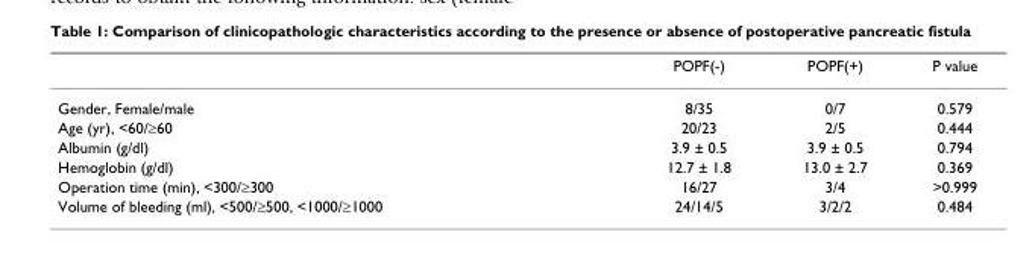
<table><thead><tr><td></td><td>POPF(-)</td><td>POPF(+)</td><td>P value</td></tr></thead><tbody><tr><td>Gender, Female/male</td><td>8/35</td><td>0/7</td><td>0.579</td></tr><tr><td>Age (yr), &lt;60/≥60</td><td>20/23</td><td>2/5</td><td>0.444</td></tr><tr><td>Albumin (g/dl)</td><td>3.9 ± 0.5</td><td>3.9 ± 0.5</td><td>0.794</td></tr><tr><td>Hemoglobin (g/dl)</td><td>12.7 ± 1.8</td><td>13.0 ± 2.7</td><td>0.369</td></tr><tr><td>Operation time (min), &lt;300/≥300</td><td>16/27</td><td>3/4</td><td>&gt;0.999</td></tr><tr><td>Volume of bleeding (ml), &lt;500/≥500, &lt;1000/≥1000</td><td>24/14/5</td><td>3/2/2</td><td>0.484</td></tr></tbody></table>